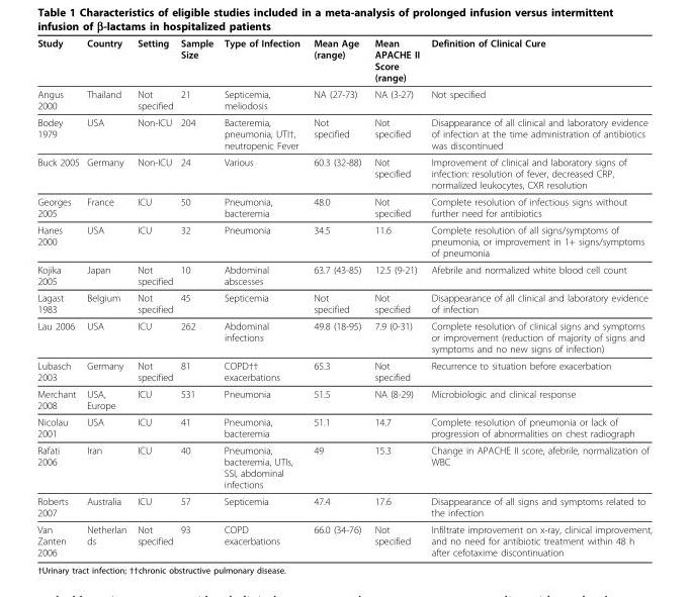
<table><thead><tr><td>Study</td><td>Country</td><td>Setting</td><td>Sample Size</td><td>Type of Infection</td><td>Mean Age (range)</td><td>Mean APACHE II Score (range)</td><td>Definition of Clinical Cure</td></tr></thead><tbody><tr><td>Angus 2000</td><td>Thailand</td><td>Not specified</td><td>21</td><td>Septicemia, meliodosis</td><td>NA (27-73)</td><td>NA (3-27)</td><td>Not specified</td></tr><tr><td>Bodey 1979</td><td>USA</td><td>Non-ICU</td><td>204</td><td>Bacteremia, pneumonia, UTI†, neutropenic Fever</td><td>Not specified</td><td>Not specified</td><td>Disappearance of all clinical and laboratory evidence of infection at the time administration of antibiotics was discontinued</td></tr><tr><td>Buck 2005</td><td>Germany</td><td>Non-ICU</td><td>24</td><td>Various</td><td>60.3 (32-88)</td><td>Not specified</td><td>Improvement of clinical and laboratory signs of infection: resolution of fever, decreased CRP, normalized leukocytes, CXR resolution</td></tr><tr><td>Georges 2005</td><td>France</td><td>ICU</td><td>50</td><td>Pneumonia, bacteremia</td><td>48.0</td><td>Not specified</td><td>Complete resolution of infectious signs without further need for antibiotics</td></tr><tr><td>Hanes 2000</td><td>USA</td><td>ICU</td><td>32</td><td>Pneumonia</td><td>34.5</td><td>11.6</td><td>Complete resolution of all signs/symptoms of pneumonia, or improvement in 1+ signs/symptoms of pneumonia</td></tr><tr><td>Kojika 2005</td><td>Japan</td><td>Not specified</td><td>10</td><td>Abdominal abscesses</td><td>63.7 (43-85)</td><td>12.5 (9-21)</td><td>Afebrile and normalized white blood cell count</td></tr><tr><td>Lagast 1983</td><td>Belgium</td><td>Not specified</td><td>45</td><td>Septicemia</td><td>Not specified</td><td>Not specified</td><td>Disappearance of all clinical and laboratory evidence of infection</td></tr><tr><td>Lau 2006</td><td>USA</td><td>ICU</td><td>262</td><td>Abdominal infections</td><td>49.8 (18-95)</td><td>7.9 (0-31)</td><td>Complete resolution of clinical signs and symptoms or improvement (reduction of majority of signs and symptoms and no new signs of infection)</td></tr><tr><td>Lubasch 2003</td><td>Germany</td><td>Not specified</td><td>81</td><td>COPD†† exacerbations</td><td>65.3</td><td>Not specified</td><td>Recurrence to situation before exacerbation</td></tr><tr><td>Merchant 2008</td><td>USA, Europe</td><td>ICU</td><td>531</td><td>Pneumonia</td><td>51.5</td><td>NA (8-29)</td><td>Microbiologic and clinical response</td></tr><tr><td>Nicolau 2001</td><td>USA</td><td>ICU</td><td>41</td><td>Pneumonia, bacteremia</td><td>51.1</td><td>14.7</td><td>Complete resolution of pneumonia or lack of progression of abnormalities on chest radiograph</td></tr><tr><td>Rafati 2006</td><td>Iran</td><td>ICU</td><td>40</td><td>Pneumonia, bacteremia, UTIs, SSI, abdominal infections</td><td>49</td><td>15.3</td><td>Change in APACHE II score, afebrile, normalization of WBC</td></tr><tr><td>Roberts 2007</td><td>Australia</td><td>ICU</td><td>57</td><td>Septicemia</td><td>47.4</td><td>17.6</td><td>Disappearance of all signs and symptoms related to the infection</td></tr><tr><td>Van Zanten 2006</td><td>Netherlan ds</td><td>Not specified</td><td>93</td><td>COPD exacerbations</td><td>66.0 (34-76)</td><td>Not specified</td><td>Infiltrate improvement on x-ray, clinical improvement, and no need for antibiotic treatment within 48 h after cefotaxime discontinuation</td></tr></tbody></table>